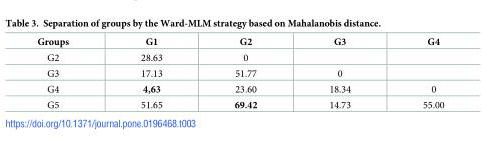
<table><thead><tr><td>Groups</td><td>G1</td><td>G2</td><td>G3</td><td>G4</td></tr></thead><tbody><tr><td>G2</td><td>28.63</td><td>0</td><td></td><td></td></tr><tr><td>G3</td><td>17.13</td><td>51.77</td><td>0</td><td></td></tr><tr><td>G4</td><td>4,63</td><td>23.60</td><td>18.34</td><td>0</td></tr><tr><td>G5</td><td>51.65</td><td>69.42</td><td>14.73</td><td>55.00</td></tr></tbody></table>